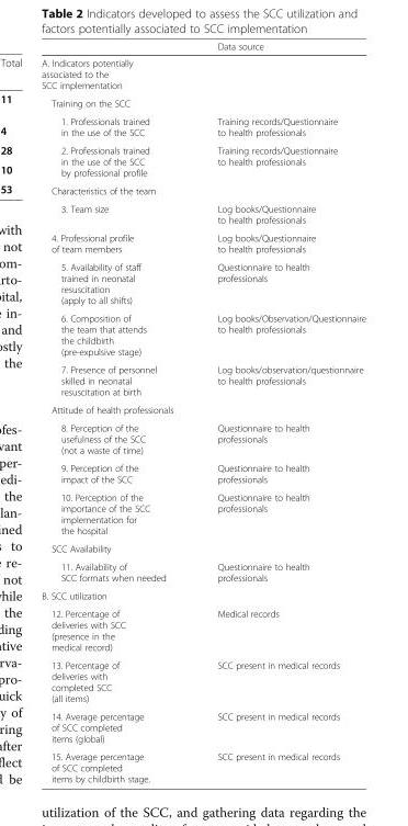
<table><thead><tr><td></td><td>Data source</td></tr></thead><tbody><tr><td colspan="2">A. Indicators potentially associated to the SCC implementation</td></tr><tr><td colspan="2">Training on the SCC</td></tr><tr><td>1. Professionals trained in the use of the SCC</td><td>Training records/Questionnaire to health professionals</td></tr><tr><td>2. Professionals trained in the use of the SCC by professional profile</td><td>Training records/Questionnaire to health professionals</td></tr><tr><td colspan="2">Characteristics of the team</td></tr><tr><td>3. Team size</td><td>Log books/Questionnaire to health professionals</td></tr><tr><td>4. Professional profile of team members</td><td>Log books/Questionnaire to health professionals</td></tr><tr><td>5. Availability of staff trained in neonatal resuscitation (apply to all shifts)</td><td>Questionnaire to health professionals</td></tr><tr><td>6. Composition of the team that attends the childbirth (pre-expulsive stage)</td><td>Log books/Observation/Questionnaire to health professionals</td></tr><tr><td>7. Presence of personnel skilled in neonatal resuscitation at birth</td><td>Log books/observation/questionnaire to health professionals</td></tr><tr><td colspan="2">Attitude of health professionals</td></tr><tr><td>8. Perception of the usefulness of the SCC (not a waste of time)</td><td>Questionnaire to health professionals</td></tr><tr><td>9. Perception of the impact of the SCC</td><td>Questionnaire to health professionals</td></tr><tr><td>10. Perception of the importance of the SCC implementation for the hospital</td><td>Questionnaire to health professionals</td></tr><tr><td colspan="2">SCC Availability</td></tr><tr><td>11. Availability of SCC formats when needed</td><td>Questionnaire to health professionals</td></tr><tr><td colspan="2">B. SCC utilization</td></tr><tr><td>12. Percentage of deliveries with SCC (presence in the medical record)</td><td>Medical records</td></tr><tr><td>13. Percentage of deliveries with completed SCC (all items)</td><td>SCC present in medical records</td></tr><tr><td>14. Average percentage of SCC completed items (global)</td><td>SCC present in medical records</td></tr><tr><td>15. Average percentage of SCC completed items by childbirth stage.</td><td>SCC present in medical records</td></tr></tbody></table>